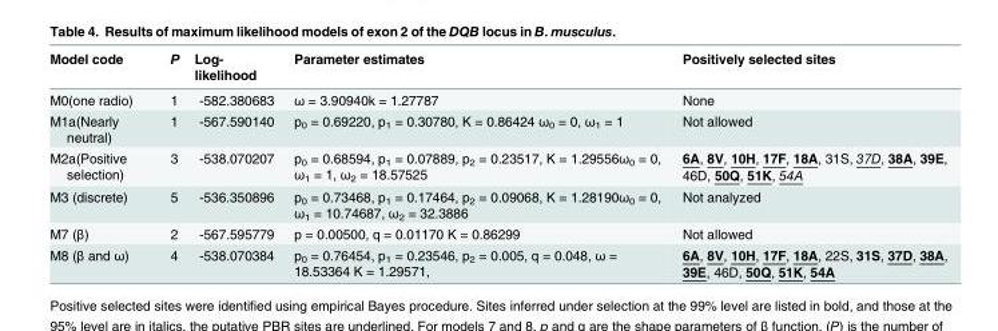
<table><thead><tr><td>Model code</td><td>P</td><td>Log- likelihood</td><td>Parameter estimates</td><td>Positively selected sites</td></tr></thead><tbody><tr><td>M0(one radio)</td><td>1</td><td>-582.380683</td><td>ω = 3.90940k = 1.27787</td><td>None</td></tr><tr><td>M1a(Nearly neutral)</td><td>1</td><td>-567.590140</td><td>p<sub>0</sub> = 0.69220, p<sub>1</sub> = 0.30780, K = 0.86424 ω<sub>0</sub> = 0, ω<sub>1</sub> = 1</td><td>Not allowed</td></tr><tr><td>M2a(Positive selection)</td><td>3</td><td>-538.070207</td><td>p<sub>0</sub> = 0.68594, p<sub>1</sub> = 0.07889, p<sub>2</sub> = 0.23517, K = 1.29556ω<sub>0</sub> = 0, ω<sub>1</sub> = 1, ω<sub>2</sub> = 18.57525</td><td>6A, 8V, 10H, 17F, 18A, 31S, 37D, 38A, 39E, 46D, 50Q, 51K, 54A</td></tr><tr><td>M3 (discrete)</td><td>5</td><td>-536.350896</td><td>p<sub>0</sub> = 0.73468, p<sub>1</sub> = 0.17464, p<sub>2</sub> = 0.09068, K = 1.28190ω<sub>0</sub> = 0, ω<sub>1</sub> = 10.74687, ω<sub>2</sub> = 32.3886</td><td>Not analyzed</td></tr><tr><td>M7 (β)</td><td>2</td><td>-567.595779</td><td>p = 0.00500, q = 0.01170 K = 0.86299</td><td>Not allowed</td></tr><tr><td>M8 (β and ω)</td><td>4</td><td>-538.070384</td><td>p<sub>0</sub> = 0.76454, p<sub>1</sub> = 0.23546, p<sub>2</sub> = 0.005, q = 0.048, ω = 18.53364 K = 1.29571,</td><td>6A, 8V, 10H, 17F, 18A, 22S, 31S, 37D, 38A, 39E, 46D, 50Q, 51K, 54A</td></tr></tbody></table>